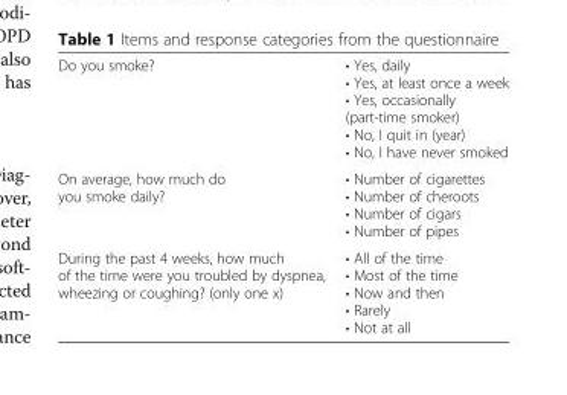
<table><tbody><tr><td>Do you smoke?</td><td>• Yes, daily • Yes, at least once a week • Yes, occasionally (part-time smoker) • No, I quit in (year) • No, I have never smoked</td></tr><tr><td>On average, how much do you smoke daily?</td><td>• Number of cigarettes • Number of cheroots • Number of cigars • Number of pipes</td></tr><tr><td>During the past 4 weeks, how much of the time were you troubled by dyspnea, wheezing or coughing? (only one x)</td><td>• All of the time • Most of the time • Now and then • Rarely • Not at all</td></tr></tbody></table>